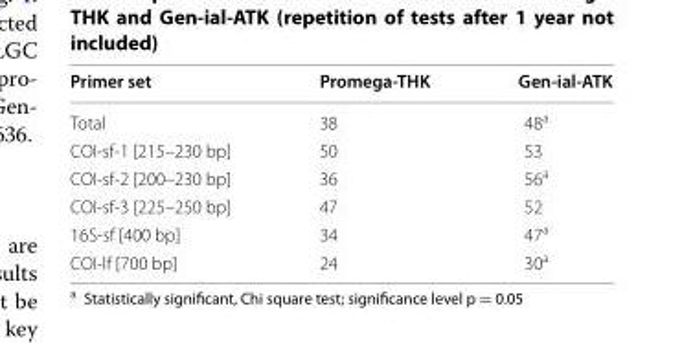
<table><thead><tr><td>Primer set</td><td>Promega-THK</td><td>Gen-ial-ATK</td></tr></thead><tbody><tr><td>Total</td><td>38</td><td>48<sup>a</sup></td></tr><tr><td>COI-sf-1 [215–230 bp]</td><td>50</td><td>53</td></tr><tr><td>COI-sf-2 [200–230 bp]</td><td>36</td><td>56<sup>a</sup></td></tr><tr><td>COI-sf-3 [225–250 bp]</td><td>47</td><td>52</td></tr><tr><td>16S-sf [400 bp]</td><td>34</td><td>47<sup>a</sup></td></tr><tr><td>COI-lf [700 bp]</td><td>24</td><td>30<sup>a</sup></td></tr></tbody></table>